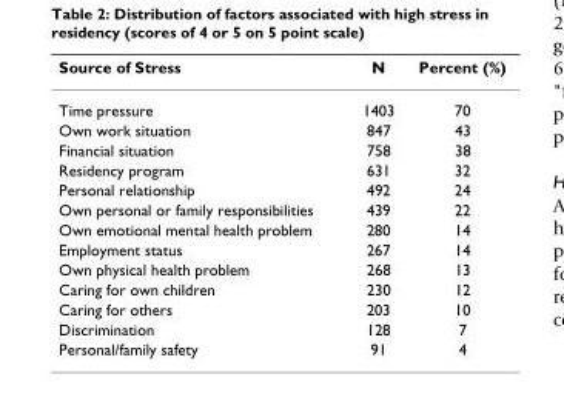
<table><thead><tr><td>Source of Stress</td><td>N</td><td>Percent (%)</td></tr></thead><tbody><tr><td>Time pressure</td><td>1403</td><td>70</td></tr><tr><td>Own work situation</td><td>847</td><td>43</td></tr><tr><td>Financial situation</td><td>758</td><td>38</td></tr><tr><td>Residency program</td><td>631</td><td>32</td></tr><tr><td>Personal relationship</td><td>492</td><td>24</td></tr><tr><td>Own personal or family responsibilities</td><td>439</td><td>22</td></tr><tr><td>Own emotional mental health problem</td><td>280</td><td>14</td></tr><tr><td>Employment status</td><td>267</td><td>14</td></tr><tr><td>Own physical health problem</td><td>268</td><td>13</td></tr><tr><td>Caring for own children</td><td>230</td><td>12</td></tr><tr><td>Caring for others</td><td>203</td><td>10</td></tr><tr><td>Discrimination</td><td>128</td><td>7</td></tr><tr><td>Personal/family safety</td><td>91</td><td>4</td></tr></tbody></table>